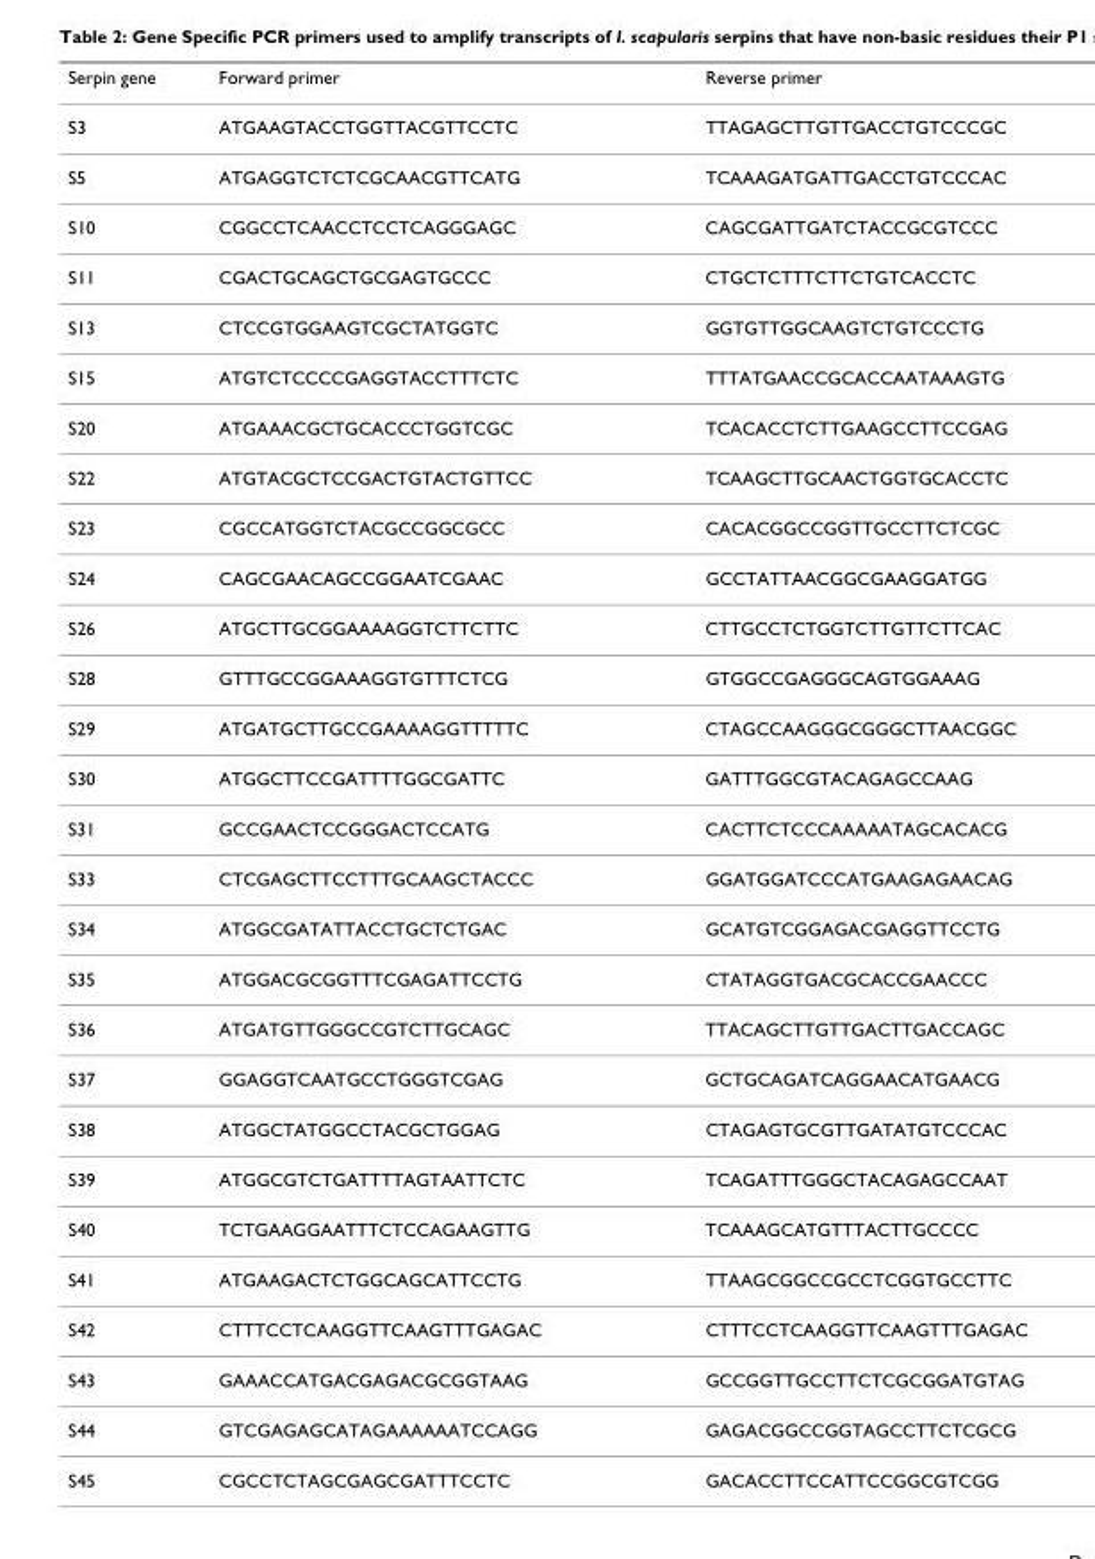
<table><thead><tr><td>Serpin gene</td><td>Forward primer</td><td>Reverse primer</td></tr></thead><tbody><tr><td>S3</td><td>ATGAAGTACCTGGTTACGTTCCTC</td><td>TTAGAGCTTGTTGACCTGTCCCGC</td></tr><tr><td>S5</td><td>ATGAGGTCTCTCGCAACGTTCATG</td><td>TCAAAGATGATTGACCTGTCCCAC</td></tr><tr><td>S10</td><td>CGGCCTCAACCTCCTCAGGGAGC</td><td>CAGCGATTGATCTACCGCGTCCC</td></tr><tr><td>S11</td><td>CGACTGCAGCTGCGAGTGCCC</td><td>CTGCTCTTTCTTCTGTCACCTC</td></tr><tr><td>S13</td><td>CTCCGTGGAAGTCGCTATGGTC</td><td>GGTGTTGGCAAGTCTGTCCCTG</td></tr><tr><td>S15</td><td>ATGTCTCCCCGAGGTACCTTTCTC</td><td>TTTATGAACCGCACCAATAAAGTG</td></tr><tr><td>S20</td><td>ATGAAACGCTGCACCCTGGTCGC</td><td>TCACACCTCTTGAAGCCTTCCGAG</td></tr><tr><td>S22</td><td>ATGTACGCTCCGACTGTACTGTTCC</td><td>TCAAGCTTGCAACTGGTGCACCTC</td></tr><tr><td>S23</td><td>CGCCATGGTCTACGCCGGCGCC</td><td>CACACGGCCGGTTGCCTTCTCGC</td></tr><tr><td>S24</td><td>CAGCGAACAGCCGGAATCGAAC</td><td>GCCTATTAACGGCGAAGGATGG</td></tr><tr><td>S26</td><td>ATGCTTGCGGAAAAGGTCTTCTTC</td><td>CTTGCCTCTGGTCTTGTTCTTCAC</td></tr><tr><td>S28</td><td>GTTTGCCGGAAAGGTGTTTCTCG</td><td>GTGGCCGAGGGCAGTGGAAAG</td></tr><tr><td>S29</td><td>ATGATGCTTGCCGAAAAGGTTTTTC</td><td>CTAGCCAAGGGCGGGCTTAACGGC</td></tr><tr><td>S30</td><td>ATGGCTTCCGATTTTGGCGATTC</td><td>GATTTGGCGTACAGAGCCAAG</td></tr><tr><td>S31</td><td>GCCGAACTCCGGGACTCCATG</td><td>CACTTCTCCCAAAAATAGCACACG</td></tr><tr><td>S33</td><td>CTCGAGCTTCCTTTGCAAGCTACCC</td><td>GGATGGATCCCATGAAGAGAACAG</td></tr><tr><td>S34</td><td>ATGGCGATATTACCTGCTCTGAC</td><td>GCATGTCGGAGACGAGGTTCCTG</td></tr><tr><td>S35</td><td>ATGGACGCGGTTTCGAGATTCCTG</td><td>CTATAGGTGACGCACCGAACCC</td></tr><tr><td>S36</td><td>ATGATGTTGGGCCGTCTTGCAGC</td><td>TTACAGCTTGTTGACTTGACCAGC</td></tr><tr><td>S37</td><td>GGAGGTCAATGCCTGGGTCGAG</td><td>GCTGCAGATCAGGAACATGAACG</td></tr><tr><td>S38</td><td>ATGGCTATGGCCTACGCTGGAG</td><td>CTAGAGTGCGTTGATATGTCCCAC</td></tr><tr><td>S39</td><td>ATGGCGTCTGATTTTAGTAATTCTC</td><td>TCAGATTTGGGCTACAGAGCCAAT</td></tr><tr><td>S40</td><td>TCTGAAGGAATTTCTCCAGAAGTTG</td><td>TCAAAGCATGTTTACTTGCCCC</td></tr><tr><td>S41</td><td>ATGAAGACTCTGGCAGCATTCCTG</td><td>TTAAGCGGCCGCCTCGGTGCCTTC</td></tr><tr><td>S42</td><td>CTTTCCTCAAGGTTCAAGTTTGAGAC</td><td>CTTTCCTCAAGGTTCAAGTTTGAGAC</td></tr><tr><td>S43</td><td>GAAACCATGACGAGACGCGGTAAG</td><td>GCCGGTTGCCTTCTCGCGGATGTAG</td></tr><tr><td>S44</td><td>GTCGAGAGCATAGAAAAAATCCAGG</td><td>GAGACGGCCGGTAGCCTTCTCGCG</td></tr><tr><td>S45</td><td>CGCCTCTAGCGAGCGATTTCCTC</td><td>GACACCTTCCATTCCGGCGTCGG</td></tr></tbody></table>